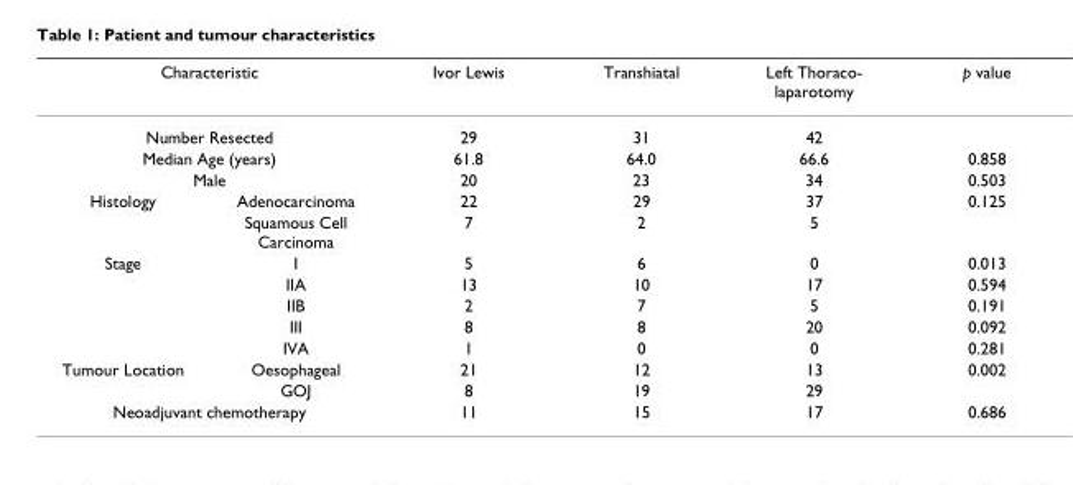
<table><thead><tr><td colspan="2">Characteristic</td><td>Ivor Lewis</td><td>Transhiatal</td><td>Left Thoraco- laparotomy</td><td>p value</td></tr></thead><tbody><tr><td colspan="2">Number Resected</td><td>29</td><td>31</td><td>42</td><td></td></tr><tr><td colspan="2">Median Age (years)</td><td>61.8</td><td>64.0</td><td>66.6</td><td>0.858</td></tr><tr><td colspan="2">Male</td><td>20</td><td>23</td><td>34</td><td>0.503</td></tr><tr><td rowspan="2">Histology</td><td>Adenocarcinoma</td><td>22</td><td>29</td><td>37</td><td>0.125</td></tr><tr><td>Squamous Cell Carcinoma</td><td>7</td><td>2</td><td>5</td><td></td></tr><tr><td rowspan="5">Stage</td><td>I</td><td>5</td><td>6</td><td>0</td><td>0.013</td></tr><tr><td>IIA</td><td>13</td><td>10</td><td>17</td><td>0.594</td></tr><tr><td>IIB</td><td>2</td><td>7</td><td>5</td><td>0.191</td></tr><tr><td>III</td><td>8</td><td>8</td><td>20</td><td>0.092</td></tr><tr><td>IVA</td><td>1</td><td>0</td><td>0</td><td>0.281</td></tr><tr><td rowspan="2">Tumour Location</td><td>Oesophageal</td><td>21</td><td>12</td><td>13</td><td>0.002</td></tr><tr><td>GOJ</td><td>8</td><td>19</td><td>29</td><td></td></tr><tr><td colspan="2">Neoadjuvant chemotherapy</td><td>11</td><td>15</td><td>17</td><td>0.686</td></tr></tbody></table>